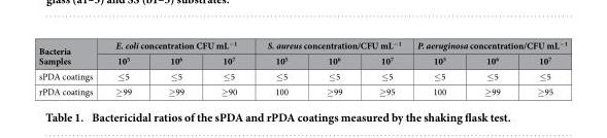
<table><thead><tr><td rowspan="2">Bacteria Samples</td><td colspan="3">E. coli concentration CFU mL<sup>−1</sup></td><td colspan="3">S. aureus concentration/CFU mL<sup>−1</sup></td><td colspan="3">P. aeruginosa concentration/CFU mL<sup>−1</sup></td></tr><tr><td>10<sup>5</sup></td><td>10<sup>6</sup></td><td>10<sup>7</sup></td><td>10<sup>5</sup></td><td>10<sup>6</sup></td><td>10<sup>7</sup></td><td>10<sup>5</sup></td><td>10<sup>6</sup></td><td>10<sup>7</sup></td></tr></thead><tbody><tr><td>sPDA coatings</td><td>≤5</td><td>≤5</td><td>≤5</td><td>≤5</td><td>≤5</td><td>≤5</td><td>≤5</td><td>≤5</td><td>≤5</td></tr><tr><td>rPDA coatings</td><td>≥ 99</td><td>≥99</td><td>≥90</td><td>100</td><td>≥99</td><td>≥95</td><td>100</td><td>≥99</td><td>≥95</td></tr></tbody></table>